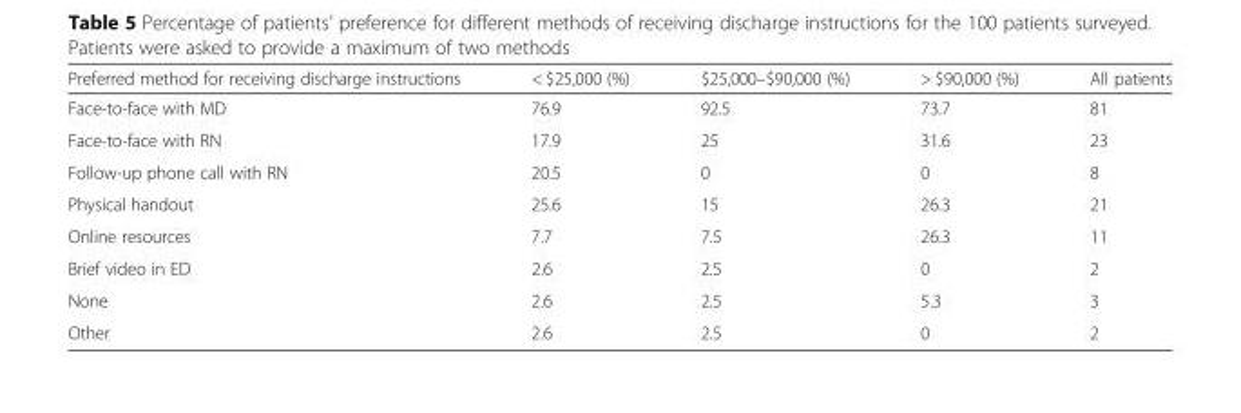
<table><thead><tr><td>Preferred method for receiving discharge instructions</td><td>&lt; $25,000 (%)</td><td>$25,000–$90,000 (%)</td><td>&gt; $90,000 (%)</td><td>All patients</td></tr></thead><tbody><tr><td>Face-to-face with MD</td><td>76.9</td><td>92.5</td><td>73.7</td><td>81</td></tr><tr><td>Face-to-face with RN</td><td>17.9</td><td>25</td><td>31.6</td><td>23</td></tr><tr><td>Follow-up phone call with RN</td><td>20.5</td><td>0</td><td>0</td><td>8</td></tr><tr><td>Physical handout</td><td>25.6</td><td>15</td><td>26.3</td><td>21</td></tr><tr><td>Online resources</td><td>7.7</td><td>7.5</td><td>26.3</td><td>11</td></tr><tr><td>Brief video in ED</td><td>2.6</td><td>2.5</td><td>0</td><td>2</td></tr><tr><td>None</td><td>2.6</td><td>2.5</td><td>5.3</td><td>3</td></tr><tr><td>Other</td><td>2.6</td><td>2.5</td><td>0</td><td>2</td></tr></tbody></table>